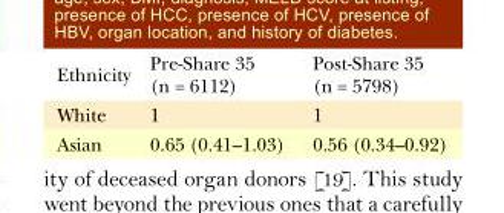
<table><thead><tr><td>Ethnicity</td><td>Pre-Share 35 (n = 6112)</td><td>Post-Share 35 (n = 5798)</td></tr></thead><tbody><tr><td>White</td><td>1</td><td>1</td></tr><tr><td>Asian</td><td>0.65 (0.41–1.03)</td><td>0.56 (0.34–0.92)</td></tr></tbody></table>